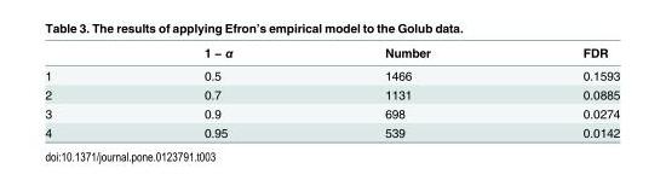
<table><thead><tr><td></td><td>1 − α</td><td>Number</td><td>FDR</td></tr></thead><tbody><tr><td>1</td><td>0.5</td><td>1466</td><td>0.1593</td></tr><tr><td>2</td><td>0.7</td><td>1131</td><td>0.0885</td></tr><tr><td>3</td><td>0.9</td><td>698</td><td>0.0274</td></tr><tr><td>4</td><td>0.95</td><td>539</td><td>0.0142</td></tr></tbody></table>